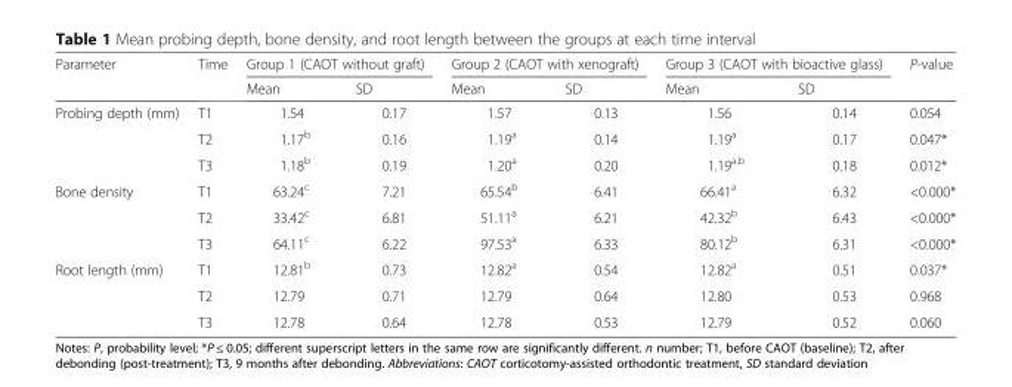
<table><thead><tr><td rowspan="2">Parameter</td><td rowspan="2">Time</td><td colspan="2">Group 1 (CAOT without graft)</td><td colspan="2">Group 2 (CAOT with xenograft)</td><td colspan="2">Group 3 (CAOT with bioactive glass)</td><td rowspan="2">P-value</td></tr><tr><td>Mean</td><td>SD</td><td>Mean</td><td>SD</td><td>Mean</td><td>SD</td></tr></thead><tbody><tr><td rowspan="3">Probing depth (mm)</td><td>T1</td><td>1.54</td><td>0.17</td><td>1.57</td><td>0.13</td><td>1.56</td><td>0.14</td><td>0.054</td></tr><tr><td>T2</td><td>1.17<sup>b</sup></td><td>0.16</td><td>1.19<sup>a</sup></td><td>0.14</td><td>1.19<sup>a</sup></td><td>0.17</td><td>0.047*</td></tr><tr><td>T3</td><td>1.18<sup>b</sup></td><td>0.19</td><td>1.20<sup>a</sup></td><td>0.20</td><td>1.19<sup>a,b</sup></td><td>0.18</td><td>0.012*</td></tr><tr><td rowspan="3">Bone density</td><td>T1</td><td>63.24<sup>c</sup></td><td>7.21</td><td>65.54<sup>b</sup></td><td>6.41</td><td>66.41<sup>a</sup></td><td>6.32</td><td>&lt;0.000*</td></tr><tr><td>T2</td><td>33.42<sup>c</sup></td><td>6.81</td><td>51.11<sup>a</sup></td><td>6.21</td><td>42.32<sup>b</sup></td><td>6.43</td><td>&lt;0.000*</td></tr><tr><td>T3</td><td>64.11<sup>c</sup></td><td>6.22</td><td>97.53<sup>a</sup></td><td>6.33</td><td>80.12<sup>b</sup></td><td>6.31</td><td>&lt;0.000*</td></tr><tr><td rowspan="3">Root length (mm)</td><td>T1</td><td>12.81<sup>b</sup></td><td>0.73</td><td>12.82<sup>a</sup></td><td>0.54</td><td>12.82<sup>a</sup></td><td>0.51</td><td>0.037*</td></tr><tr><td>T2</td><td>12.79</td><td>0.71</td><td>12.79</td><td>0.64</td><td>12.80</td><td>0.53</td><td>0.968</td></tr><tr><td>T3</td><td>12.78</td><td>0.64</td><td>12.78</td><td>0.53</td><td>12.79</td><td>0.52</td><td>0.060</td></tr></tbody></table>